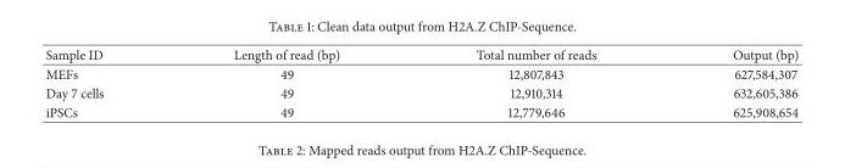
<table><thead><tr><td>Sample ID</td><td>Length of read (bp)</td><td>Total number of reads</td><td>Output (bp)</td></tr></thead><tbody><tr><td>MEFs</td><td>49</td><td>12,807,843</td><td>627,584,307</td></tr><tr><td>Day 7 cells</td><td>49</td><td>12,910,314</td><td>632,605,386</td></tr><tr><td>iPSCs</td><td>49</td><td>12,779,646</td><td>625,908,654</td></tr></tbody></table>